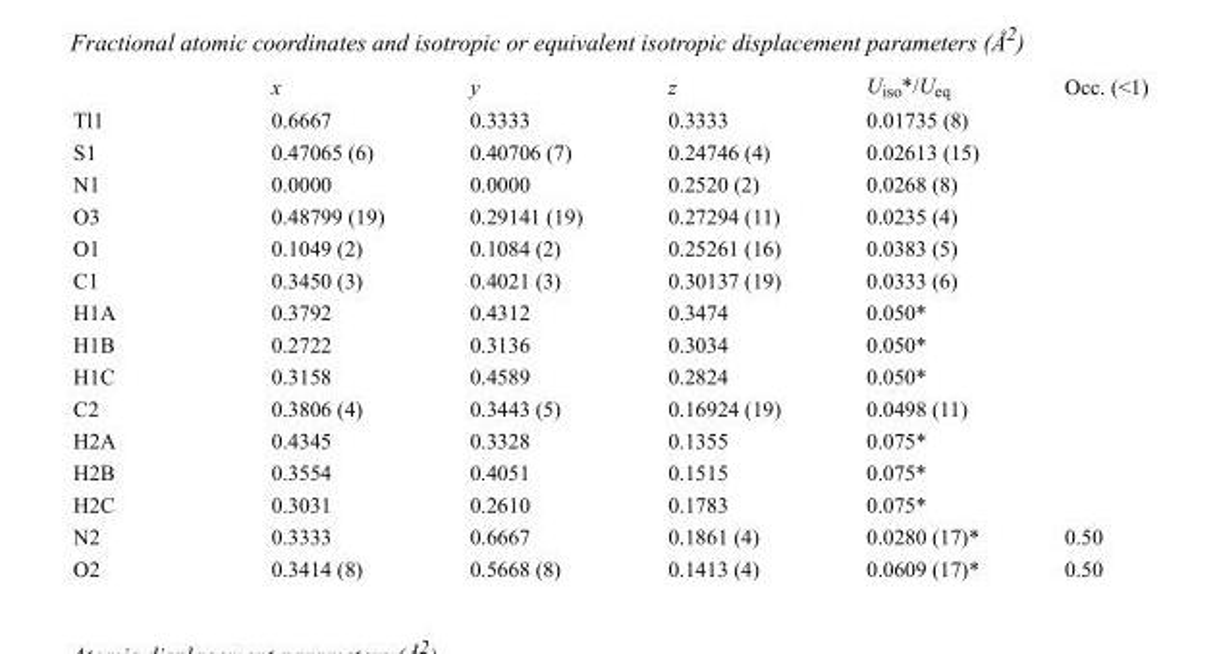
<table><thead><tr><td></td><td>x</td><td>y</td><td>z</td><td>U<sub>iso</sub>*/U<sub>eq</sub></td><td>Occ. (&lt;1)</td></tr></thead><tbody><tr><td>Tl1</td><td>0.6667</td><td>0.3333</td><td>0.3333</td><td>0.01735 (8)</td><td></td></tr><tr><td>S1</td><td>0.47065 (6)</td><td>0.40706 (7)</td><td>0.24746 (4)</td><td>0.02613 (15)</td><td></td></tr><tr><td>N1</td><td>0.0000</td><td>0.0000</td><td>0.2520 (2)</td><td>0.0268 (8)</td><td></td></tr><tr><td>O3</td><td>0.48799 (19)</td><td>0.29141 (19)</td><td>0.27294 (11)</td><td>0.0235 (4)</td><td></td></tr><tr><td>O1</td><td>0.1049 (2)</td><td>0.1084 (2)</td><td>0.25261 (16)</td><td>0.0383 (5)</td><td></td></tr><tr><td>C1</td><td>0.3450 (3)</td><td>0.4021 (3)</td><td>0.30137 (19)</td><td>0.0333 (6)</td><td></td></tr><tr><td>H1A</td><td>0.3792</td><td>0.4312</td><td>0.3474</td><td>0.050*</td><td></td></tr><tr><td>H1B</td><td>0.2722</td><td>0.3136</td><td>0.3034</td><td>0.050*</td><td></td></tr><tr><td>H1C</td><td>0.3158</td><td>0.4589</td><td>0.2824</td><td>0.050*</td><td></td></tr><tr><td>C2</td><td>0.3806 (4)</td><td>0.3443 (5)</td><td>0.16924 (19)</td><td>0.0498 (11)</td><td></td></tr><tr><td>H2A</td><td>0.4345</td><td>0.3328</td><td>0.1355</td><td>0.075*</td><td></td></tr><tr><td>H2B</td><td>0.3554</td><td>0.4051</td><td>0.1515</td><td>0.075*</td><td></td></tr><tr><td>H2C</td><td>0.3031</td><td>0.2610</td><td>0.1783</td><td>0.075*</td><td></td></tr><tr><td>N2</td><td>0.3333</td><td>0.6667</td><td>0.1861 (4)</td><td>0.0280 (17)*</td><td>0.50</td></tr><tr><td>O2</td><td>0.3414 (8)</td><td>0.5668 (8)</td><td>0.1413 (4)</td><td>0.0609 (17)*</td><td>0.50</td></tr></tbody></table>